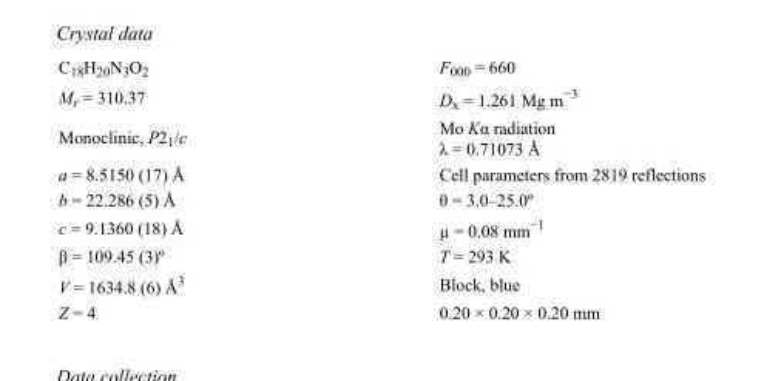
<table><tbody><tr><td>C<sub>18</sub>H<sub>20</sub>N<sub>3</sub>O<sub>2</sub></td><td>F000 = 660</td></tr><tr><td>M<sub>r</sub> = 310.37</td><td>D<sub>x</sub> = 1.261 Mg m<sup>−3</sup></td></tr><tr><td>Monoclinic, P2<sub>1</sub>/c</td><td>Mo Kα radiation λ = 0.71073 Å</td></tr><tr><td>a = 8.5150 (17) Å</td><td>Cell parameters from 2819 reflections</td></tr><tr><td>b = 22.286 (5) Å</td><td>θ = 3.0–25.0º</td></tr><tr><td>c = 9.1360 (18) Å</td><td>µ = 0.08 mm<sup>−1</sup></td></tr><tr><td>β = 109.45 (3)º</td><td>T = 293 K</td></tr><tr><td>V = 1634.8 (6) Å<sup>3</sup></td><td>Block, blue</td></tr><tr><td>Z = 4</td><td>0.20 × 0.20 × 0.20 mm</td></tr></tbody></table>